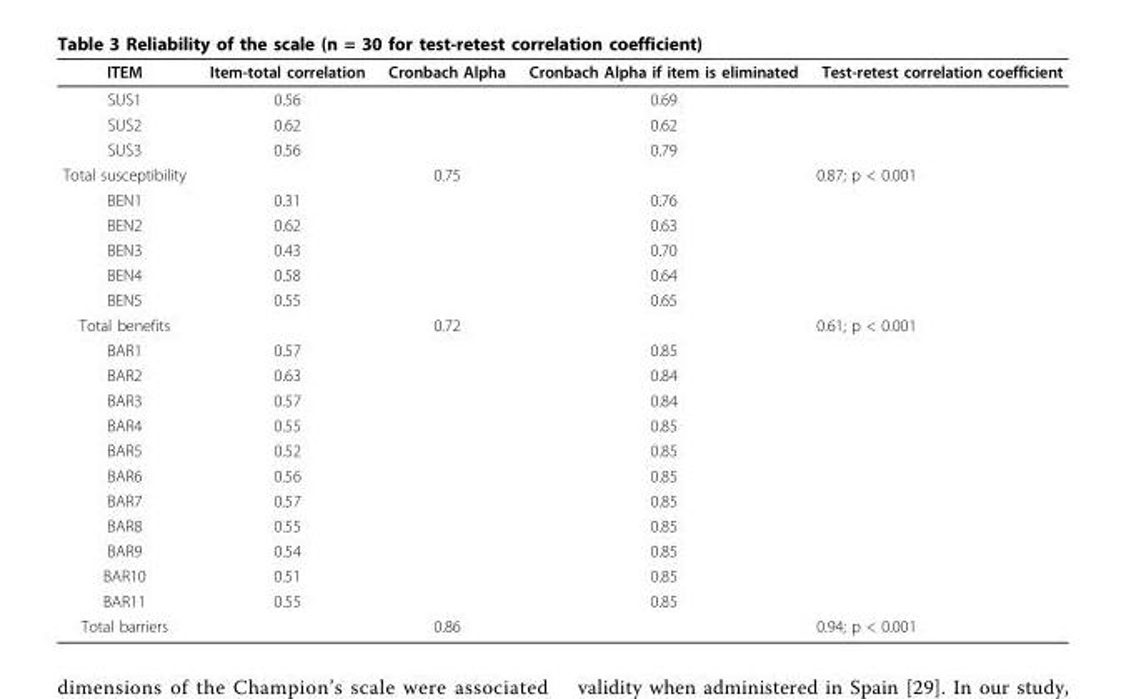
<table><thead><tr><td>ITEM</td><td>Item-total correlation</td><td>Cronbach Alpha</td><td>Cronbach Alpha if item is eliminated</td><td>Test-retest correlation coefficient</td></tr></thead><tbody><tr><td>SUS1</td><td>0.56</td><td></td><td>0.69</td><td></td></tr><tr><td>SUS2</td><td>0.62</td><td></td><td>0.62</td><td></td></tr><tr><td>SUS3</td><td>0.56</td><td></td><td>0.79</td><td></td></tr><tr><td>Total susceptibility</td><td></td><td>0.75</td><td></td><td>0.87; p &lt; 0.001</td></tr><tr><td>BEN1</td><td>0.31</td><td></td><td>0.76</td><td></td></tr><tr><td>BEN2</td><td>0.62</td><td></td><td>0.63</td><td></td></tr><tr><td>BEN3</td><td>0.43</td><td></td><td>0.70</td><td></td></tr><tr><td>BEN4</td><td>0.58</td><td></td><td>0.64</td><td></td></tr><tr><td>BEN5</td><td>0.55</td><td></td><td>0.65</td><td></td></tr><tr><td>Total benefits</td><td></td><td>0.72</td><td></td><td>0.61; p &lt; 0.001</td></tr><tr><td>BAR1</td><td>0.57</td><td></td><td>0.85</td><td></td></tr><tr><td>BAR2</td><td>0.63</td><td></td><td>0.84</td><td></td></tr><tr><td>BAR3</td><td>0.57</td><td></td><td>0.84</td><td></td></tr><tr><td>BAR4</td><td>0.55</td><td></td><td>0.85</td><td></td></tr><tr><td>BAR5</td><td>0.52</td><td></td><td>0.85</td><td></td></tr><tr><td>BAR6</td><td>0.56</td><td></td><td>0.85</td><td></td></tr><tr><td>BAR7</td><td>0.57</td><td></td><td>0.85</td><td></td></tr><tr><td>BAR8</td><td>0.55</td><td></td><td>0.85</td><td></td></tr><tr><td>BAR9</td><td>0.54</td><td></td><td>0.85</td><td></td></tr><tr><td>BAR10</td><td>0.51</td><td></td><td>0.85</td><td></td></tr><tr><td>BAR11</td><td>0.55</td><td></td><td>0.85</td><td></td></tr><tr><td>Total barriers</td><td></td><td>0.86</td><td></td><td>0.94; p &lt; 0.001</td></tr></tbody></table>